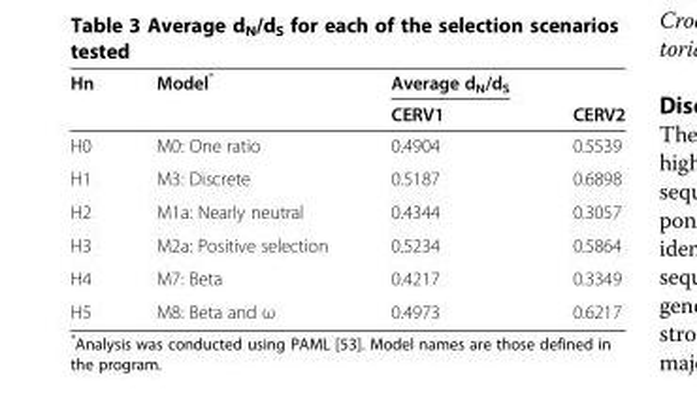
<table><thead><tr><td rowspan="2">Hn</td><td rowspan="2">Model*</td><td rowspan="2">Average d<sub>N</sub>/d<sub>S</sub> CERV1</td><td rowspan="2">CERV2</td></tr><tr></tr></thead><tbody><tr><td>H0</td><td>M0: One ratio</td><td>0.4904</td><td>0.5539</td></tr><tr><td>H1</td><td>M3: Discrete</td><td>0.5187</td><td>0.6898</td></tr><tr><td>H2</td><td>M1a: Nearly neutral</td><td>0.4344</td><td>0.3057</td></tr><tr><td>H3</td><td>M2a: Positive selection</td><td>0.5234</td><td>0.5864</td></tr><tr><td>H4</td><td>M7: Beta</td><td>0.4217</td><td>0.3349</td></tr><tr><td>H5</td><td>M8: Beta and ω</td><td>0.4973</td><td>0.6217</td></tr></tbody></table>